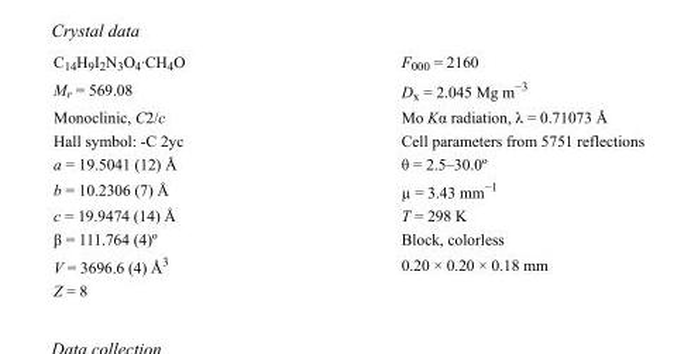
<table><tbody><tr><td>C<sub>14</sub>H<sub>9</sub>I<sub>2</sub>N<sub>3</sub>O<sub>4</sub>·CH<sub>4</sub>O</td><td>F000 = 2160</td></tr><tr><td>M<sub>r</sub> = 569.08</td><td>D<sub>x</sub> = 2.045 Mg m<sup>−3</sup></td></tr><tr><td>Monoclinic, C2/c</td><td>Mo Kα radiation, λ = 0.71073 Å</td></tr><tr><td>Hall symbol: -C 2yc</td><td>Cell parameters from 5751 reflections</td></tr><tr><td>a = 19.5041 (12) Å</td><td>θ = 2.5–30.0º</td></tr><tr><td>b = 10.2306 (7) Å</td><td>µ = 3.43 mm<sup>−1</sup></td></tr><tr><td>c = 19.9474 (14) Å</td><td>T = 298 K</td></tr><tr><td>β = 111.764 (4)º</td><td>Block, colorless</td></tr><tr><td>V = 3696.6 (4) Å<sup>3</sup></td><td>0.20 × 0.20 × 0.18 mm</td></tr><tr><td>Z = 8</td><td></td></tr></tbody></table>